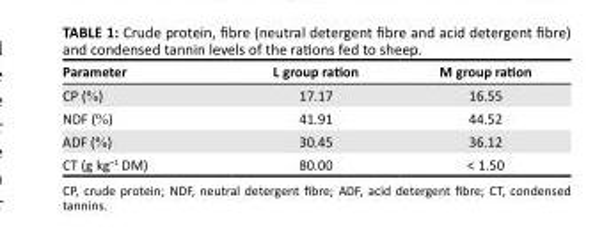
<table><thead><tr><td>Parameter</td><td>L group ration</td><td>M group ration</td></tr></thead><tbody><tr><td>CP (%)</td><td>17.17</td><td>16.55</td></tr><tr><td>NDF (%)</td><td>41.91</td><td>44.52</td></tr><tr><td>ADF (%)</td><td>30.45</td><td>36.12</td></tr><tr><td>CT (g kg<sup>−1</sup> DM)</td><td>80.00</td><td>&lt; 1.50</td></tr></tbody></table>